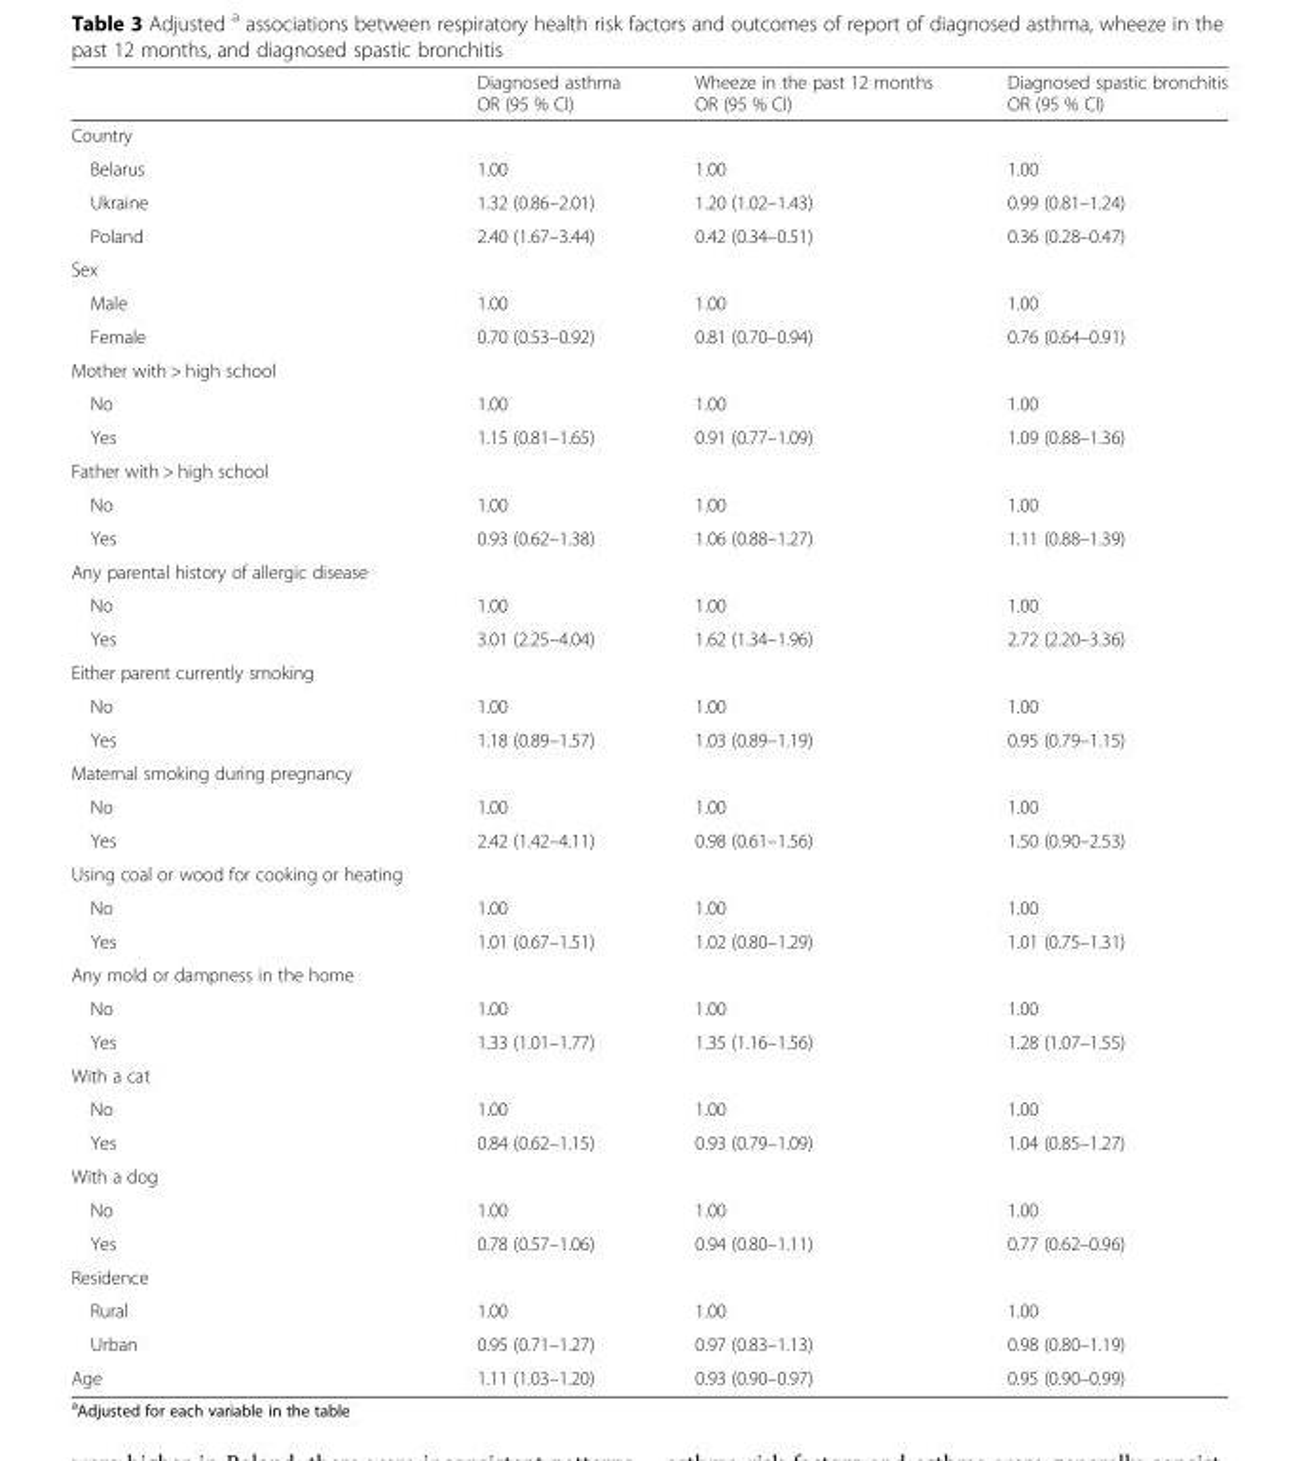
<table><thead><tr><td></td><td>Diagnosed asthma OR (95 % CI)</td><td>Wheeze in the past 12 months OR (95 % CI)</td><td>Diagnosed spastic bronchitis OR (95 % CI)</td></tr></thead><tbody><tr><td colspan="4">Country</td></tr><tr><td>Belarus</td><td>1.00</td><td>1.00</td><td>1.00</td></tr><tr><td>Ukraine</td><td>1.32 (0.86–2.01)</td><td>1.20 (1.02–1.43)</td><td>0.99 (0.81–1.24)</td></tr><tr><td>Poland</td><td>2.40 (1.67–3.44)</td><td>0.42 (0.34–0.51)</td><td>0.36 (0.28–0.47)</td></tr><tr><td colspan="4">Sex</td></tr><tr><td>Male</td><td>1.00</td><td>1.00</td><td>1.00</td></tr><tr><td>Female</td><td>0.70 (0.53–0.92)</td><td>0.81 (0.70–0.94)</td><td>0.76 (0.64–0.91)</td></tr><tr><td colspan="4">Mother with &gt; high school</td></tr><tr><td>No</td><td>1.00</td><td>1.00</td><td>1.00</td></tr><tr><td>Yes</td><td>1.15 (0.81–1.65)</td><td>0.91 (0.77–1.09)</td><td>1.09 (0.88–1.36)</td></tr><tr><td colspan="4">Father with &gt; high school</td></tr><tr><td>No</td><td>1.00</td><td>1.00</td><td>1.00</td></tr><tr><td>Yes</td><td>0.93 (0.62–1.38)</td><td>1.06 (0.88–1.27)</td><td>1.11 (0.88–1.39)</td></tr><tr><td colspan="4">Any parental history of allergic disease</td></tr><tr><td>No</td><td>1.00</td><td>1.00</td><td>1.00</td></tr><tr><td>Yes</td><td>3.01 (2.25–4.04)</td><td>1.62 (1.34–1.96)</td><td>2.72 (2.20–3.36)</td></tr><tr><td colspan="4">Either parent currently smoking</td></tr><tr><td>No</td><td>1.00</td><td>1.00</td><td>1.00</td></tr><tr><td>Yes</td><td>1.18 (0.89–1.57)</td><td>1.03 (0.89–1.19)</td><td>0.95 (0.79–1.15)</td></tr><tr><td colspan="4">Maternal smoking during pregnancy</td></tr><tr><td>No</td><td>1.00</td><td>1.00</td><td>1.00</td></tr><tr><td>Yes</td><td>2.42 (1.42–4.11)</td><td>0.98 (0.61–1.56)</td><td>1.50 (0.90–2.53)</td></tr><tr><td colspan="4">Using coal or wood for cooking or heating</td></tr><tr><td>No</td><td>1.00</td><td>1.00</td><td>1.00</td></tr><tr><td>Yes</td><td>1.01 (0.67–1.51)</td><td>1.02 (0.80–1.29)</td><td>1.01 (0.75–1.31)</td></tr><tr><td colspan="4">Any mold or dampness in the home</td></tr><tr><td>No</td><td>1.00</td><td>1.00</td><td>1.00</td></tr><tr><td>Yes</td><td>1.33 (1.01–1.77)</td><td>1.35 (1.16–1.56)</td><td>1.28 (1.07–1.55)</td></tr><tr><td colspan="4">With a cat</td></tr><tr><td>No</td><td>1.00</td><td>1.00</td><td>1.00</td></tr><tr><td>Yes</td><td>0.84 (0.62–1.15)</td><td>0.93 (0.79–1.09)</td><td>1.04 (0.85–1.27)</td></tr><tr><td colspan="4">With a dog</td></tr><tr><td>No</td><td>1.00</td><td>1.00</td><td>1.00</td></tr><tr><td>Yes</td><td>0.78 (0.57–1.06)</td><td>0.94 (0.80–1.11)</td><td>0.77 (0.62–0.96)</td></tr><tr><td colspan="4">Residence</td></tr><tr><td>Rural</td><td>1.00</td><td>1.00</td><td>1.00</td></tr><tr><td>Urban</td><td>0.95 (0.71–1.27)</td><td>0.97 (0.83–1.13)</td><td>0.98 (0.80–1.19)</td></tr><tr><td>Age</td><td>1.11 (1.03–1.20)</td><td>0.93 (0.90–0.97)</td><td>0.95 (0.90–0.99)</td></tr></tbody></table>